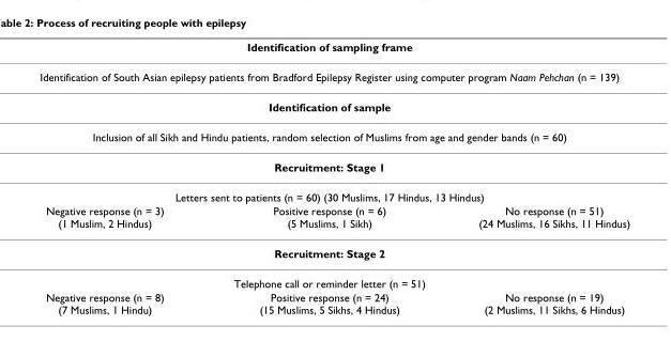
<table><thead><tr><td colspan="3">Identification of sampling frame</td></tr></thead><tbody><tr><td colspan="3">Identification of South Asian epilepsy patients from Bradford Epilepsy Register using computer program Naam Pehchan (n = 139)</td></tr><tr><td colspan="3">Identification of sample</td></tr><tr><td colspan="3">Inclusion of all Sikh and Hindu patients, random selection of Muslims from age and gender bands (n = 60)</td></tr><tr><td colspan="3">Recruitment: Stage 1</td></tr><tr><td colspan="3">Letters sent to patients (n = 60) (30 Muslims, 17 Hindus, 13 Hindus)</td></tr><tr><td>Negative response (n = 3) (1 Muslim, 2 Hindus)</td><td>Positive response (n = 6) (5 Muslims, 1 Sikh)</td><td>No response (n = 51) (24 Muslims, 16 Sikhs, 11 Hindus)</td></tr><tr><td colspan="3">Recruitment: Stage 2</td></tr><tr><td colspan="3">Telephone call or reminder letter (n = 51)</td></tr><tr><td>Negative response (n = 8) (7 Muslims, 1 Hindu)</td><td>Positive response (n = 24) (15 Muslims, 5 Sikhs, 4 Hindus)</td><td>No response (n = 19) (2 Muslims, 11 Sikhs, 6 Hindus)</td></tr></tbody></table>